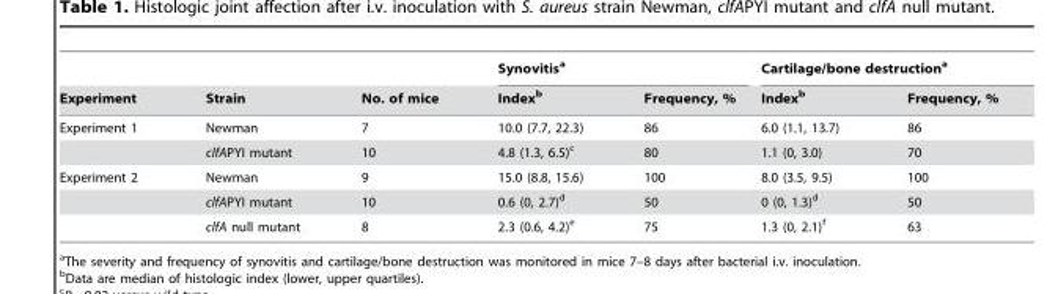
<table><thead><tr><td rowspan="2">Experiment</td><td rowspan="2">Strain</td><td rowspan="2">No. of mice</td><td colspan="2">Synovitis<sup>a</sup></td><td colspan="2">Cartilage/bone destruction<sup>a</sup></td></tr><tr><td>Index<sup>b</sup></td><td>Frequency, %</td><td>Index<sup>b</sup></td><td>Frequency, %</td></tr></thead><tbody><tr><td rowspan="2">Experiment 1</td><td>Newman</td><td>7</td><td>10.0 (7.7, 22.3)</td><td>86</td><td>6.0 (1.1, 13.7)</td><td>86</td></tr><tr><td>clfAPYI mutant</td><td>10</td><td>4.8 (1.3, 6.5)<sup>c</sup></td><td>80</td><td>1.1 (0, 3.0)</td><td>70</td></tr><tr><td rowspan="3">Experiment 2</td><td>Newman</td><td>9</td><td>15.0 (8.8, 15.6)</td><td>100</td><td>8.0 (3.5, 9.5)</td><td>100</td></tr><tr><td>clfAPYI mutant</td><td>10</td><td>0.6 (0, 2.7)<sup>d</sup></td><td>50</td><td>0 (0, 1.3)<sup>d</sup></td><td>50</td></tr><tr><td>clfA null mutant</td><td>8</td><td>2.3 (0.6, 4.2)<sup>e</sup></td><td>75</td><td>1.3 (0, 2.1)<sup>f</sup></td><td>63</td></tr></tbody></table>